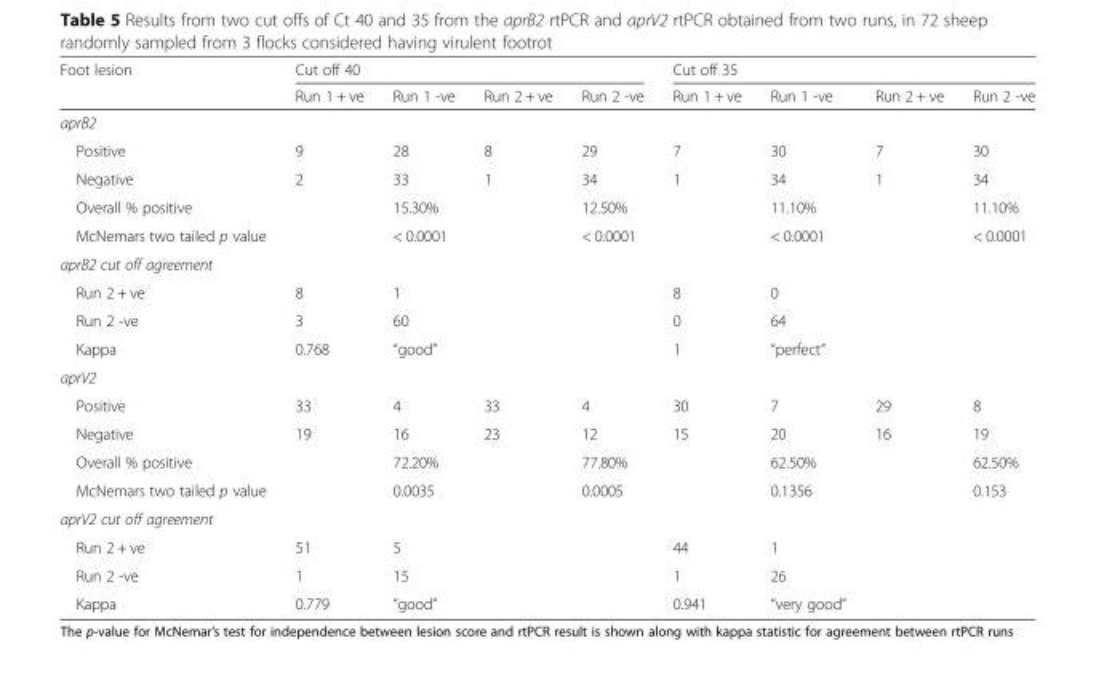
<table><thead><tr><td rowspan="2">Foot lesion</td><td colspan="4">Cut off 40</td><td colspan="4">Cut off 35</td></tr><tr><td>Run 1 + ve</td><td>Run 1 -ve</td><td>Run 2 + ve</td><td>Run 2 -ve</td><td>Run 1 + ve</td><td>Run 1 -ve</td><td>Run 2 + ve</td><td>Run 2 -ve</td></tr></thead><tbody><tr><td colspan="9">aprB2</td></tr><tr><td>Positive</td><td>9</td><td>28</td><td>8</td><td>29</td><td>7</td><td>30</td><td>7</td><td>30</td></tr><tr><td>Negative</td><td>2</td><td>33</td><td>1</td><td>34</td><td>1</td><td>34</td><td>1</td><td>34</td></tr><tr><td>Overall % positive</td><td></td><td>15.30%</td><td></td><td>12.50%</td><td></td><td>11.10%</td><td></td><td>11.10%</td></tr><tr><td>McNemars two tailed p value</td><td></td><td>&lt; 0.0001</td><td></td><td>&lt; 0.0001</td><td></td><td>&lt; 0.0001</td><td></td><td>&lt; 0.0001</td></tr><tr><td colspan="9">aprB2 cut off agreement</td></tr><tr><td>Run 2 + ve</td><td>8</td><td>1</td><td></td><td></td><td>8</td><td>0</td><td></td><td></td></tr><tr><td>Run 2 -ve</td><td>3</td><td>60</td><td></td><td></td><td>0</td><td>64</td><td></td><td></td></tr><tr><td>Kappa</td><td>0.768</td><td>“good”</td><td></td><td></td><td>1</td><td>“perfect”</td><td></td><td></td></tr><tr><td colspan="9">aprV2</td></tr><tr><td>Positive</td><td>33</td><td>4</td><td>33</td><td>4</td><td>30</td><td>7</td><td>29</td><td>8</td></tr><tr><td>Negative</td><td>19</td><td>16</td><td>23</td><td>12</td><td>15</td><td>20</td><td>16</td><td>19</td></tr><tr><td>Overall % positive</td><td></td><td>72.20%</td><td></td><td>77.80%</td><td></td><td>62.50%</td><td></td><td>62.50%</td></tr><tr><td>McNemars two tailed p value</td><td></td><td>0.0035</td><td></td><td>0.0005</td><td></td><td>0.1356</td><td></td><td>0.153</td></tr><tr><td colspan="9">aprV2 cut off agreement</td></tr><tr><td>Run 2 + ve</td><td>51</td><td>5</td><td></td><td></td><td>44</td><td>1</td><td></td><td></td></tr><tr><td>Run 2 -ve</td><td>1</td><td>15</td><td></td><td></td><td>1</td><td>26</td><td></td><td></td></tr><tr><td>Kappa</td><td>0.779</td><td>“good”</td><td></td><td></td><td>0.941</td><td>“very good”</td><td></td><td></td></tr></tbody></table>